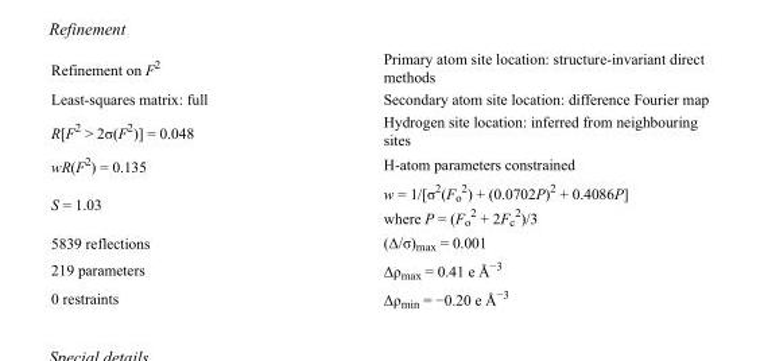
<table><tbody><tr><td>Refinement on F<sup>2</sup></td><td>Primary atom site location: structure-invariant direct methods</td></tr><tr><td>Least-squares matrix: full</td><td>Secondary atom site location: difference Fourier map</td></tr><tr><td>R[F<sup>2</sup> &gt; 2σ(F<sup>2</sup>)] = 0.048</td><td>Hydrogen site location: inferred from neighbouring sites</td></tr><tr><td>wR(F<sup>2</sup>) = 0.135</td><td>H-atom parameters constrained</td></tr><tr><td>S = 1.03</td><td>w = 1/[σ<sup>2</sup>(F<sub>o</sub> <sup>2</sup>) + (0.0702P)<sup>2</sup> + 0.4086P] where P = (F<sub>o</sub> <sup>2</sup> + 2F<sub>c</sub> <sup>2</sup>)/3</td></tr><tr><td>5839 reflections</td><td>(Δ/σ)<sub>max</sub> = 0.001</td></tr><tr><td>219 parameters</td><td>Δρ<sub>max</sub> = 0.41 e Å<sup>−3</sup></td></tr><tr><td>0 restraints</td><td>Δρ<sub>min</sub> = −0.20 e Å<sup>−3</sup></td></tr></tbody></table>